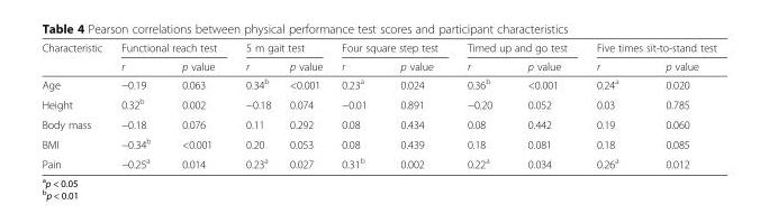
<table><thead><tr><td rowspan="2">Characteristic</td><td colspan="2">Functional reach test</td><td colspan="2">5 m gait test</td><td colspan="2">Four square step test</td><td colspan="2">Timed up and go test</td><td colspan="2">Five times sit-to-stand test</td></tr><tr><td>r</td><td>p value</td><td>r</td><td>p value</td><td>r</td><td>p value</td><td>r</td><td>p value</td><td>r</td><td>p value</td></tr></thead><tbody><tr><td>Age</td><td>−0.19</td><td>0.063</td><td>0.34<sup>b</sup></td><td>&lt;0.001</td><td>0.23<sup>a</sup></td><td>0.024</td><td>0.36<sup>b</sup></td><td>&lt;0.001</td><td>0.24<sup>a</sup></td><td>0.020</td></tr><tr><td>Height</td><td>0.32<sup>b</sup></td><td>0.002</td><td>−0.18</td><td>0.074</td><td>−0.01</td><td>0.891</td><td>−0.20</td><td>0.052</td><td>0.03</td><td>0.785</td></tr><tr><td>Body mass</td><td>−0.18</td><td>0.076</td><td>0.11</td><td>0.292</td><td>0.08</td><td>0.434</td><td>0.08</td><td>0.442</td><td>0.19</td><td>0.060</td></tr><tr><td>BMI</td><td>−0.34<sup>b</sup></td><td>&lt;0.001</td><td>0.20</td><td>0.053</td><td>0.08</td><td>0.439</td><td>0.18</td><td>0.081</td><td>0.18</td><td>0.085</td></tr><tr><td>Pain</td><td>−0.25<sup>a</sup></td><td>0.014</td><td>0.23<sup>a</sup></td><td>0.027</td><td>0.31<sup>b</sup></td><td>0.002</td><td>0.22<sup>a</sup></td><td>0.034</td><td>0.26<sup>a</sup></td><td>0.012</td></tr></tbody></table>